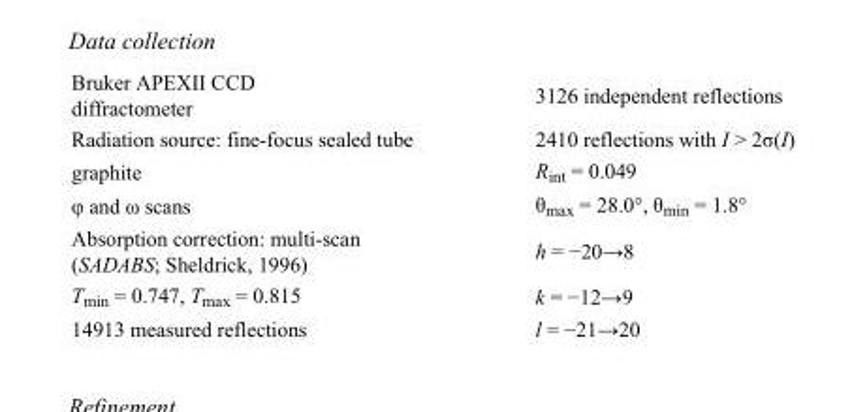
<table><tbody><tr><td>Bruker APEXII CCD diffractometer</td><td>3126 independent reflections</td></tr><tr><td>Radiation source: fine-focus sealed tube</td><td>2410 reflections with I &gt; 2σ(I)</td></tr><tr><td>graphite</td><td>R<sub>int</sub> = 0.049</td></tr><tr><td>φ and ω scans</td><td>θ<sub>max</sub> = 28.0°, θ<sub>min</sub> = 1.8°</td></tr><tr><td>Absorption correction: multi-scan (SADABS; Sheldrick, 1996)</td><td>h = −20→8</td></tr><tr><td>T<sub>min</sub> = 0.747, T<sub>max</sub> = 0.815</td><td>k = −12→9</td></tr><tr><td>14913 measured reflections</td><td>l = −21→20</td></tr></tbody></table>